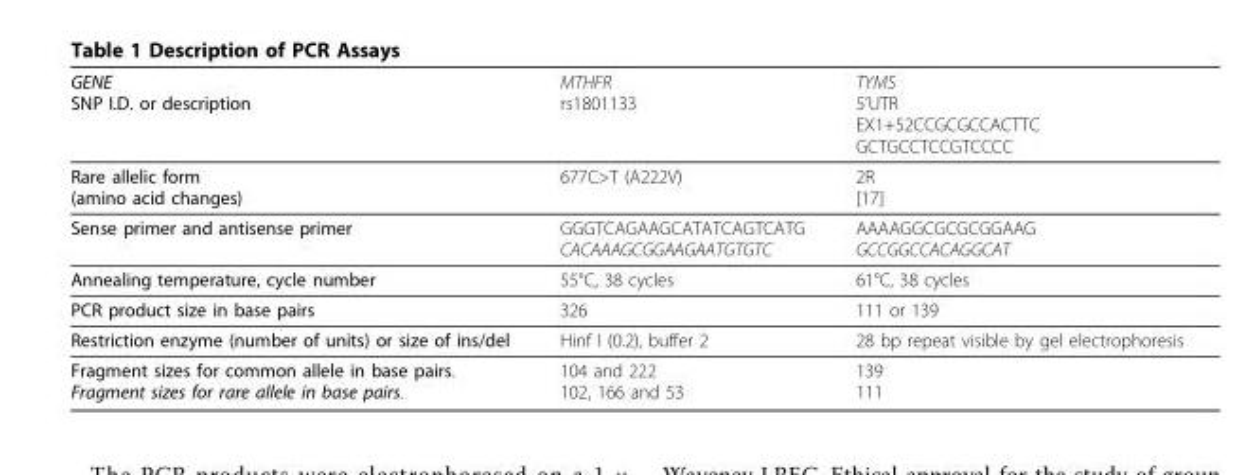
<table><thead><tr><td>GENE SNP I.D. or description</td><td>MTHFR rs1801133</td><td>TYMS 5’UTR EX1+52CCGCGCCACTTC GCTGCCTCCGTCCCC</td></tr></thead><tbody><tr><td>Rare allelic form (amino acid changes)</td><td>677C&gt;T (A222V)</td><td>2R [17]</td></tr><tr><td>Sense primer and antisense primer</td><td>GGGTCAGAAGCATATCAGTCATG CACAAAGCGGAAGAATGTGTC</td><td>AAAAGGCGCGCGGAAG GCCGGCCACAGGCAT</td></tr><tr><td>Annealing temperature, cycle number</td><td>55°C, 38 cycles</td><td>61°C, 38 cycles</td></tr><tr><td>PCR product size in base pairs</td><td>326</td><td>111 or 139</td></tr><tr><td>Restriction enzyme (number of units) or size of ins/del</td><td>Hinf I (0.2), buffer 2</td><td>28 bp repeat visible by gel electrophoresis</td></tr><tr><td>Fragment sizes for common allele in base pairs. Fragment sizes for rare allele in base pairs.</td><td>104 and 222 102, 166 and 53</td><td>139 111</td></tr></tbody></table>